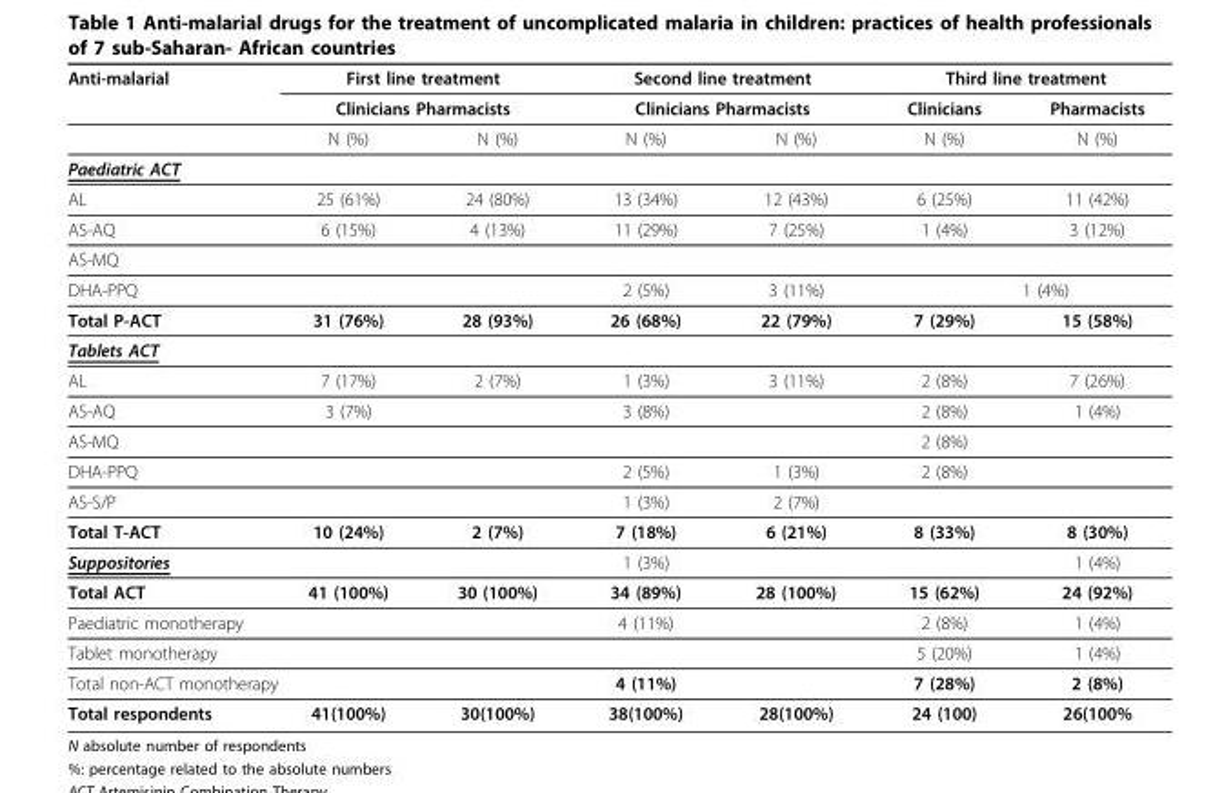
<table><thead><tr><td rowspan="3">Anti-malarial</td><td rowspan="2" colspan="2">First line treatment Clinicians Pharmacists</td><td rowspan="2" colspan="2">Second line treatment Clinicians Pharmacists</td><td colspan="2">Third line treatment</td></tr><tr><td rowspan="2">Clinicians N (%)</td><td rowspan="2">Pharmacists N (%)</td></tr><tr><td>N (%)</td><td>N (%)</td><td>N (%)</td><td>N (%)</td></tr></thead><tbody><tr><td colspan="7">Paediatric ACT</td></tr><tr><td>AL</td><td>25 (61%)</td><td>24 (80%)</td><td>13 (34%)</td><td>12 (43%)</td><td>6 (25%)</td><td>11 (42%)</td></tr><tr><td>AS-AQ</td><td>6 (15%)</td><td>4 (13%)</td><td>11 (29%)</td><td>7 (25%)</td><td>1 (4%)</td><td>3 (12%)</td></tr><tr><td colspan="7">AS-MQ</td></tr><tr><td>DHA-PPQ</td><td></td><td></td><td>2 (5%)</td><td>3 (11%)</td><td></td><td>1 (4%)</td></tr><tr><td>Total P-ACT</td><td>31 (76%)</td><td>28 (93%)</td><td>26 (68%)</td><td>22 (79%)</td><td>7 (29%)</td><td>15 (58%)</td></tr><tr><td colspan="7">Tablets ACT</td></tr><tr><td>AL</td><td>7 (17%)</td><td>2 (7%)</td><td>1 (3%)</td><td>3 (11%)</td><td>2 (8%)</td><td>7 (26%)</td></tr><tr><td>AS-AQ</td><td>3 (7%)</td><td></td><td>3 (8%)</td><td></td><td>2 (8%)</td><td>1 (4%)</td></tr><tr><td>AS-MQ</td><td></td><td></td><td></td><td></td><td>2 (8%)</td><td></td></tr><tr><td>DHA-PPQ</td><td></td><td></td><td>2 (5%)</td><td>1 (3%)</td><td>2 (8%)</td><td></td></tr><tr><td>AS-S/P</td><td></td><td></td><td>1 (3%)</td><td>2 (7%)</td><td></td><td></td></tr><tr><td>Total T-ACT</td><td>10 (24%)</td><td>2 (7%)</td><td>7 (18%)</td><td>6 (21%)</td><td>8 (33%)</td><td>8 (30%)</td></tr><tr><td>Suppositories</td><td></td><td></td><td>1 (3%)</td><td></td><td></td><td>1 (4%)</td></tr><tr><td>Total ACT</td><td>41 (100%)</td><td>30 (100%)</td><td>34 (89%)</td><td>28 (100%)</td><td>15 (62%)</td><td>24 (92%)</td></tr><tr><td colspan="2">Paediatric monotherapy</td><td></td><td>4 (11%)</td><td></td><td>2 (8%)</td><td>1 (4%)</td></tr><tr><td colspan="2">Tablet monotherapy</td><td></td><td></td><td></td><td>5 (20%)</td><td>1 (4%)</td></tr><tr><td colspan="2">Total non-ACT monotherapy</td><td></td><td>4 (11%)</td><td></td><td>7 (28%)</td><td>2 (8%)</td></tr><tr><td>Total respondents</td><td>41(100%)</td><td>30(100%)</td><td>38(100%)</td><td>28(100%)</td><td>24 (100)</td><td>26(100%</td></tr></tbody></table>